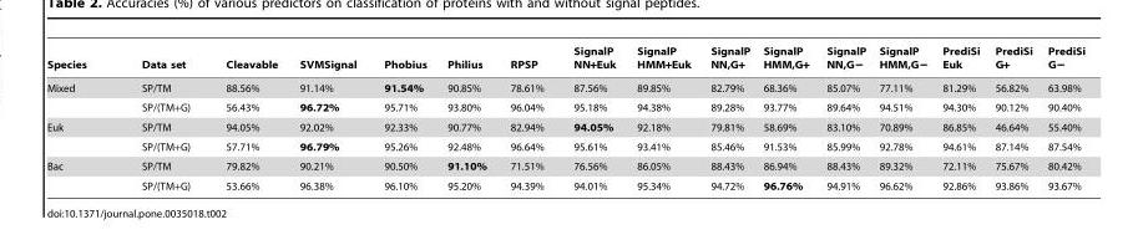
<table><thead><tr><td>Species</td><td>Data set</td><td>Cleavable</td><td>SVMSignal</td><td>Phobius</td><td>Philius</td><td>RPSP</td><td>SignalP NN+Euk</td><td>SignalP HMM+Euk</td><td>SignalP NN,G+</td><td>SignalP HMM,G+</td><td>SignalP NN,G−</td><td>SignalP HMM,G−</td><td>PrediSi Euk</td><td>PrediSi G+</td><td>PrediSi G−</td></tr></thead><tbody><tr><td rowspan="2">Mixed</td><td>SP/TM</td><td>88.56%</td><td>91.14%</td><td>91.54%</td><td>90.85%</td><td>78.61%</td><td>87.56%</td><td>89.85%</td><td>82.79%</td><td>68.36%</td><td>85.07%</td><td>77.11%</td><td>81.29%</td><td>56.82%</td><td>63.98%</td></tr><tr><td>SP/(TM+G)</td><td>56.43%</td><td>96.72%</td><td>95.71%</td><td>93.80%</td><td>96.04%</td><td>95.18%</td><td>94.38%</td><td>89.28%</td><td>93.77%</td><td>89.64%</td><td>94.51%</td><td>94.30%</td><td>90.12%</td><td>90.40%</td></tr><tr><td rowspan="2">Euk</td><td>SP/TM</td><td>94.05%</td><td>92.02%</td><td>92.33%</td><td>90.77%</td><td>82.94%</td><td>94.05%</td><td>92.18%</td><td>79.81%</td><td>58.69%</td><td>83.10%</td><td>70.89%</td><td>86.85%</td><td>46.64%</td><td>55.40%</td></tr><tr><td>SP/(TM+G)</td><td>57.71%</td><td>96.79%</td><td>95.26%</td><td>92.48%</td><td>96.64%</td><td>95.61%</td><td>93.41%</td><td>85.46%</td><td>91.53%</td><td>85.99%</td><td>92.78%</td><td>94.61%</td><td>87.14%</td><td>87.54%</td></tr><tr><td rowspan="2">Bac</td><td>SP/TM</td><td>79.82%</td><td>90.21%</td><td>90.50%</td><td>91.10%</td><td>71.51%</td><td>76.56%</td><td>86.05%</td><td>88.43%</td><td>86.94%</td><td>88.43%</td><td>89.32%</td><td>72.11%</td><td>75.67%</td><td>80.42%</td></tr><tr><td>SP/(TM+G)</td><td>53.66%</td><td>96.38%</td><td>96.10%</td><td>95.20%</td><td>94.39%</td><td>94.01%</td><td>95.34%</td><td>94.72%</td><td>96.76%</td><td>94.91%</td><td>96.62%</td><td>92.86%</td><td>93.86%</td><td>93.67%</td></tr></tbody></table>